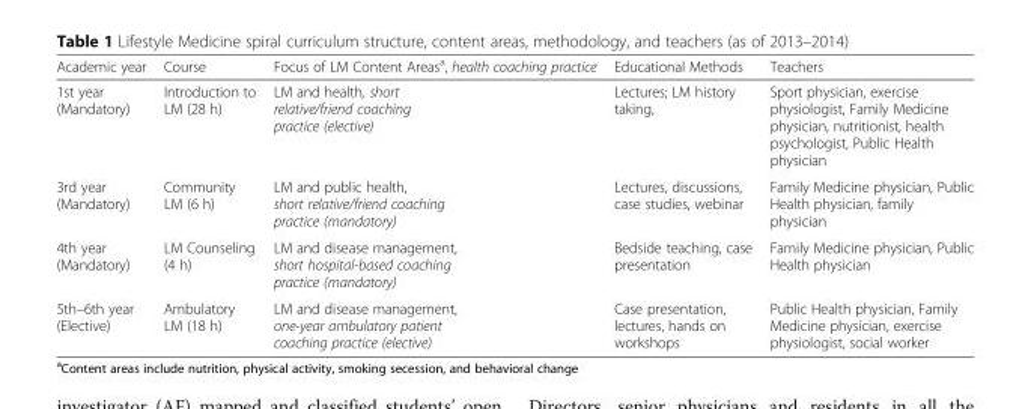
<table><thead><tr><td>Academic year</td><td>Course</td><td>Focus of LM Content Areas<sup>a</sup>, health coaching practice</td><td>Educational Methods</td><td>Teachers</td></tr></thead><tbody><tr><td>1st year (Mandatory)</td><td>Introduction to LM (28 h)</td><td>LM and health, short relative/friend coaching practice (elective)</td><td>Lectures; LM history taking,</td><td>Sport physician, exercise physiologist, Family Medicine physician, nutritionist, health psychologist, Public Health physician</td></tr><tr><td>3rd year (Mandatory)</td><td>Community LM (6 h)</td><td>LM and public health, short relative/friend coaching practice (mandatory)</td><td>Lectures, discussions, case studies, webinar</td><td>Family Medicine physician, Public Health physician, family physician</td></tr><tr><td>4th year (Mandatory)</td><td>LM Counseling (4 h)</td><td>LM and disease management, short hospital-based coaching practice (mandatory)</td><td>Bedside teaching, case presentation</td><td>Family Medicine physician, Public Health physician</td></tr><tr><td>5th–6th year (Elective)</td><td>Ambulatory LM (18 h)</td><td>LM and disease management, one-year ambulatory patient coaching practice (elective)</td><td>Case presentation, lectures, hands on workshops</td><td>Public Health physician, Family Medicine physician, exercise physiologist, social worker</td></tr></tbody></table>